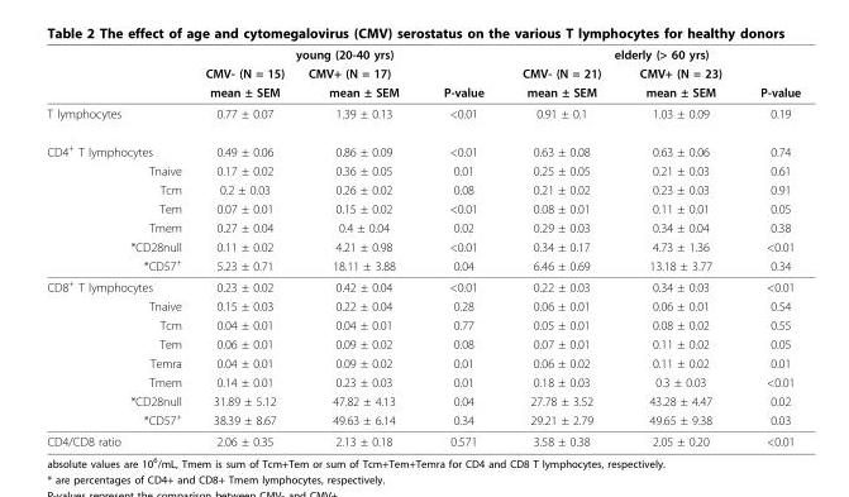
<table><thead><tr><td rowspan="3"></td><td colspan="3">young (20-40 yrs)</td><td colspan="3">elderly (&gt; 60 yrs)</td></tr><tr><td rowspan="2">CMV- (N = 15) mean ± SEM</td><td rowspan="2">CMV+ (N = 17) mean ± SEM</td><td rowspan="2">P-value</td><td rowspan="2">CMV- (N = 21) mean ± SEM</td><td rowspan="2">CMV+ (N = 23) mean ± SEM</td><td rowspan="2">P-value</td></tr><tr></tr></thead><tbody><tr><td>T lymphocytes</td><td>0.77 ± 0.07</td><td>1.39 ± 0.13</td><td>&lt;0.01</td><td>0.91 ± 0.1</td><td>1.03 ± 0.09</td><td>0.19</td></tr><tr><td>CD4<sup>+</sup> T lymphocytes</td><td>0.49 ± 0.06</td><td>0.86 ± 0.09</td><td>&lt;0.01</td><td>0.63 ± 0.08</td><td>0.63 ± 0.06</td><td>0.74</td></tr><tr><td>Tnaive</td><td>0.17 ± 0.02</td><td>0.36 ± 0.05</td><td>0.01</td><td>0.25 ± 0.05</td><td>0.21 ± 0.03</td><td>0.61</td></tr><tr><td>Tcm</td><td>0.2 ± 0.03</td><td>0.26 ± 0.02</td><td>0.08</td><td>0.21 ± 0.02</td><td>0.23 ± 0.03</td><td>0.91</td></tr><tr><td>Tem</td><td>0.07 ± 0.01</td><td>0.15 ± 0.02</td><td>&lt;0.01</td><td>0.08 ± 0.01</td><td>0.11 ± 0.01</td><td>0.05</td></tr><tr><td>Tmem</td><td>0.27 ± 0.04</td><td>0.4 ± 0.04</td><td>0.02</td><td>0.29 ± 0.03</td><td>0.34 ± 0.04</td><td>0.38</td></tr><tr><td>*CD28null</td><td>0.11 ± 0.02</td><td>4.21 ± 0.98</td><td>&lt;0.01</td><td>0.34 ± 0.17</td><td>4.73 ± 1.36</td><td>&lt;0.01</td></tr><tr><td>*CD57<sup>+</sup></td><td>5.23 ± 0.71</td><td>18.11 ± 3.88</td><td>0.04</td><td>6.46 ± 0.69</td><td>13.18 ± 3.77</td><td>0.34</td></tr><tr><td>CD8<sup>+</sup> T lymphocytes</td><td>0.23 ± 0.02</td><td>0.42 ± 0.04</td><td>&lt;0.01</td><td>0.22 ± 0.03</td><td>0.34 ± 0.03</td><td>&lt;0.01</td></tr><tr><td>Tnaive</td><td>0.15 ± 0.03</td><td>0.22 ± 0.04</td><td>0.28</td><td>0.06 ± 0.01</td><td>0.06 ± 0.01</td><td>0.54</td></tr><tr><td>Tcm</td><td>0.04 ± 0.01</td><td>0.04 ± 0.01</td><td>0.77</td><td>0.05 ± 0.01</td><td>0.08 ± 0.02</td><td>0.55</td></tr><tr><td>Tem</td><td>0.06 ± 0.01</td><td>0.09 ± 0.02</td><td>0.08</td><td>0.07 ± 0.01</td><td>0.11 ± 0.02</td><td>0.05</td></tr><tr><td>Temra</td><td>0.04 ± 0.01</td><td>0.09 ± 0.02</td><td>0.01</td><td>0.06 ± 0.02</td><td>0.11 ± 0.02</td><td>0.01</td></tr><tr><td>Tmem</td><td>0.14 ± 0.01</td><td>0.23 ± 0.03</td><td>0.01</td><td>0.18 ± 0.03</td><td>0.3 ± 0.03</td><td>&lt;0.01</td></tr><tr><td>*CD28null</td><td>31.89 ± 5.12</td><td>47.82 ± 4.13</td><td>0.04</td><td>27.78 ± 3.52</td><td>43.28 ± 4.47</td><td>0.02</td></tr><tr><td>*CD57<sup>+</sup></td><td>38.39 ± 8.67</td><td>49.63 ± 6.14</td><td>0.34</td><td>29.21 ± 2.79</td><td>49.65 ± 9.38</td><td>0.03</td></tr><tr><td>CD4/CD8 ratio</td><td>2.06 ± 0.35</td><td>2.13 ± 0.18</td><td>0.571</td><td>3.58 ± 0.38</td><td>2.05 ± 0.20</td><td>&lt;0.01</td></tr></tbody></table>